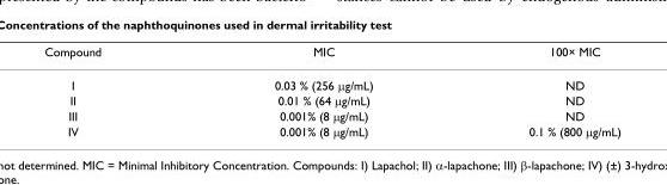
<table><thead><tr><td>Compound</td><td>MIC</td><td>100× MIC</td></tr></thead><tbody><tr><td>I</td><td>0.03 % (256 µg/mL)</td><td>ND</td></tr><tr><td>II</td><td>0.01 % (64 µg/mL)</td><td>ND</td></tr><tr><td>III</td><td>0.001% (8 µg/mL)</td><td>ND</td></tr><tr><td>IV</td><td>0.001% (8 µg/mL)</td><td>0.1 % (800 µg/mL)</td></tr></tbody></table>